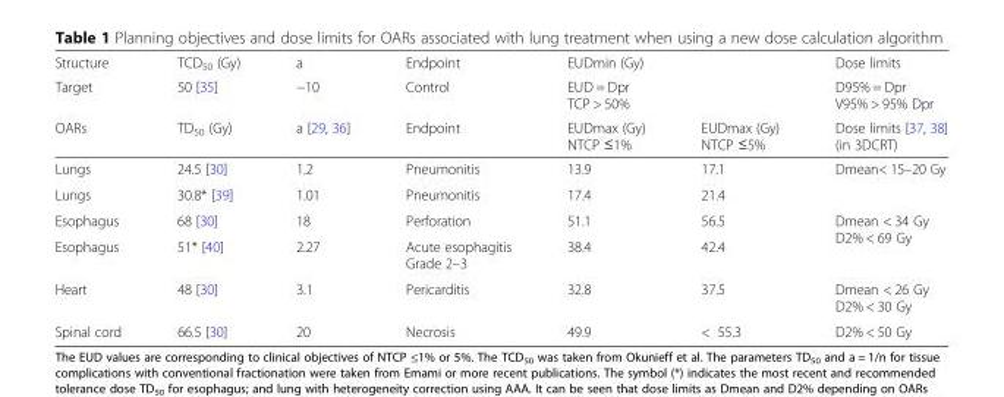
<table><thead><tr><td rowspan="3">Structure Target OARs</td><td rowspan="3">TCD<sub>50</sub> (Gy) 50 [35] TD<sub>50</sub> (Gy)</td><td rowspan="3">a −10 a [29, 36]</td><td rowspan="3">Endpoint Control Endpoint</td><td rowspan="3">EUDmin (Gy) EUD = Dpr TCP &gt; 50% EUDmax (Gy) NTCP ≤1%</td><td rowspan="3">EUDmax (Gy) NTCP ≤5%</td><td rowspan="3">Dose limits D95% = Dpr V95% &gt; 95% Dpr Dose limits [37, 38] (in 3DCRT)</td></tr><tr></tr><tr></tr></thead><tbody><tr><td>Lungs</td><td>24.5 [30]</td><td>1.2</td><td>Pneumonitis</td><td>13.9</td><td>17.1</td><td rowspan="2">Dmean&lt; 15–20 Gy</td></tr><tr><td>Lungs</td><td>30.8* [39]</td><td>1.01</td><td>Pneumonitis</td><td>17.4</td><td>21.4</td></tr><tr><td>Esophagus</td><td>68 [30]</td><td>18</td><td>Perforation</td><td>51.1</td><td>56.5</td><td rowspan="2">Dmean &lt; 34 Gy D2% &lt; 69 Gy</td></tr><tr><td>Esophagus</td><td>51* [40]</td><td>2.27</td><td>Acute esophagitis Grade 2–3</td><td>38.4</td><td>42.4</td></tr><tr><td>Heart</td><td>48 [30]</td><td>3.1</td><td>Pericarditis</td><td>32.8</td><td>37.5</td><td>Dmean &lt; 26 Gy D2% &lt; 30 Gy</td></tr><tr><td>Spinal cord</td><td>66.5 [30]</td><td>20</td><td>Necrosis</td><td>49.9</td><td>&lt; 55.3</td><td>D2% &lt; 50 Gy</td></tr></tbody></table>